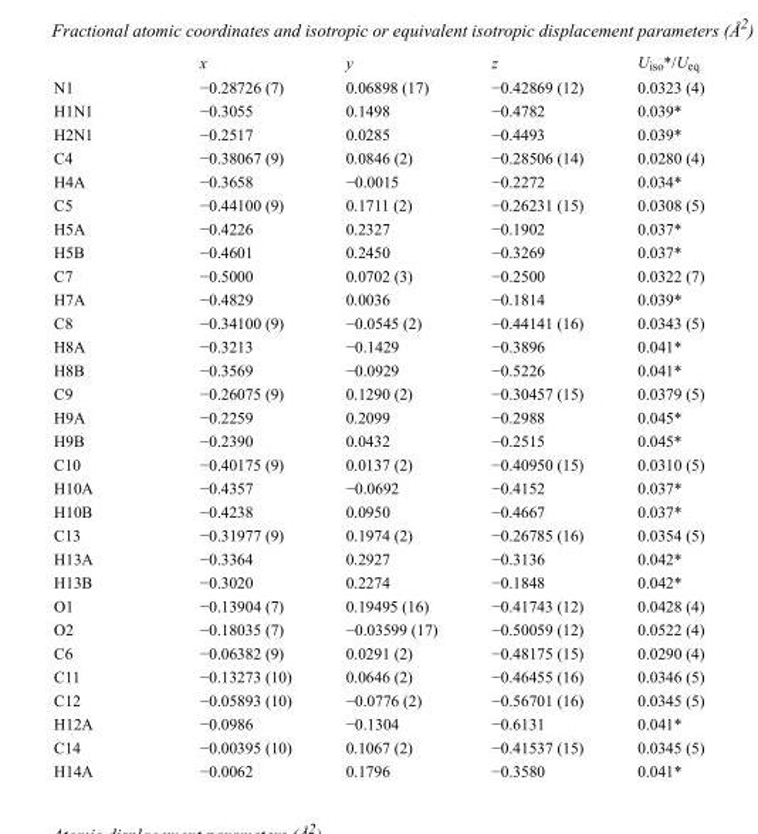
<table><thead><tr><td></td><td>x</td><td>y</td><td>z</td><td>U<sub>iso</sub>*/U<sub>eq</sub></td></tr></thead><tbody><tr><td>N1</td><td>−0.28726 (7)</td><td>0.06898 (17)</td><td>−0.42869 (12)</td><td>0.0323 (4)</td></tr><tr><td>H1N1</td><td>−0.3055</td><td>0.1498</td><td>−0.4782</td><td>0.039*</td></tr><tr><td>H2N1</td><td>−0.2517</td><td>0.0285</td><td>−0.4493</td><td>0.039*</td></tr><tr><td>C4</td><td>−0.38067 (9)</td><td>0.0846 (2)</td><td>−0.28506 (14)</td><td>0.0280 (4)</td></tr><tr><td>H4A</td><td>−0.3658</td><td>−0.0015</td><td>−0.2272</td><td>0.034*</td></tr><tr><td>C5</td><td>−0.44100 (9)</td><td>0.1711 (2)</td><td>−0.26231 (15)</td><td>0.0308 (5)</td></tr><tr><td>H5A</td><td>−0.4226</td><td>0.2327</td><td>−0.1902</td><td>0.037*</td></tr><tr><td>H5B</td><td>−0.4601</td><td>0.2450</td><td>−0.3269</td><td>0.037*</td></tr><tr><td>C7</td><td>−0.5000</td><td>0.0702 (3)</td><td>−0.2500</td><td>0.0322 (7)</td></tr><tr><td>H7A</td><td>−0.4829</td><td>0.0036</td><td>−0.1814</td><td>0.039*</td></tr><tr><td>C8</td><td>−0.34100 (9)</td><td>−0.0545 (2)</td><td>−0.44141 (16)</td><td>0.0343 (5)</td></tr><tr><td>H8A</td><td>−0.3213</td><td>−0.1429</td><td>−0.3896</td><td>0.041*</td></tr><tr><td>H8B</td><td>−0.3569</td><td>−0.0929</td><td>−0.5226</td><td>0.041*</td></tr><tr><td>C9</td><td>−0.26075 (9)</td><td>0.1290 (2)</td><td>−0.30457 (15)</td><td>0.0379 (5)</td></tr><tr><td>H9A</td><td>−0.2259</td><td>0.2099</td><td>−0.2988</td><td>0.045*</td></tr><tr><td>H9B</td><td>−0.2390</td><td>0.0432</td><td>−0.2515</td><td>0.045*</td></tr><tr><td>C10</td><td>−0.40175 (9)</td><td>0.0137 (2)</td><td>−0.40950 (15)</td><td>0.0310 (5)</td></tr><tr><td>H10A</td><td>−0.4357</td><td>−0.0692</td><td>−0.4152</td><td>0.037*</td></tr><tr><td>H10B</td><td>−0.4238</td><td>0.0950</td><td>−0.4667</td><td>0.037*</td></tr><tr><td>C13</td><td>−0.31977 (9)</td><td>0.1974 (2)</td><td>−0.26785 (16)</td><td>0.0354 (5)</td></tr><tr><td>H13A</td><td>−0.3364</td><td>0.2927</td><td>−0.3136</td><td>0.042*</td></tr><tr><td>H13B</td><td>−0.3020</td><td>0.2274</td><td>−0.1848</td><td>0.042*</td></tr><tr><td>O1</td><td>−0.13904 (7)</td><td>0.19495 (16)</td><td>−0.41743 (12)</td><td>0.0428 (4)</td></tr><tr><td>O2</td><td>−0.18035 (7)</td><td>−0.03599 (17)</td><td>−0.50059 (12)</td><td>0.0522 (4)</td></tr><tr><td>C6</td><td>−0.06382 (9)</td><td>0.0291 (2)</td><td>−0.48175 (15)</td><td>0.0290 (4)</td></tr><tr><td>C11</td><td>−0.13273 (10)</td><td>0.0646 (2)</td><td>−0.46455 (16)</td><td>0.0346 (5)</td></tr><tr><td>C12</td><td>−0.05893 (10)</td><td>−0.0776 (2)</td><td>−0.56701 (16)</td><td>0.0345 (5)</td></tr><tr><td>H12A</td><td>−0.0986</td><td>−0.1304</td><td>−0.6131</td><td>0.041*</td></tr><tr><td>C14</td><td>−0.00395 (10)</td><td>0.1067 (2)</td><td>−0.41537 (15)</td><td>0.0345 (5)</td></tr><tr><td>H14A</td><td>−0.0062</td><td>0.1796</td><td>−0.3580</td><td>0.041*</td></tr></tbody></table>